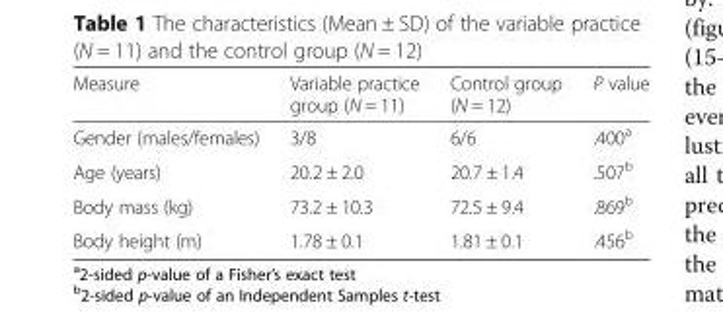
<table><thead><tr><td>Measure</td><td>Variable practice group (N = 11)</td><td>Control group (N = 12)</td><td>P value</td></tr></thead><tbody><tr><td>Gender (males/females)</td><td>3/8</td><td>6/6</td><td>.400<sup>a</sup></td></tr><tr><td>Age (years)</td><td>20.2 ± 2.0</td><td>20.7 ± 1.4</td><td>.507<sup>b</sup></td></tr><tr><td>Body mass (kg)</td><td>73.2 ± 10.3</td><td>72.5 ± 9.4</td><td>.869<sup>b</sup></td></tr><tr><td>Body height (m)</td><td>1.78 ± 0.1</td><td>1.81 ± 0.1</td><td>.456<sup>b</sup></td></tr></tbody></table>